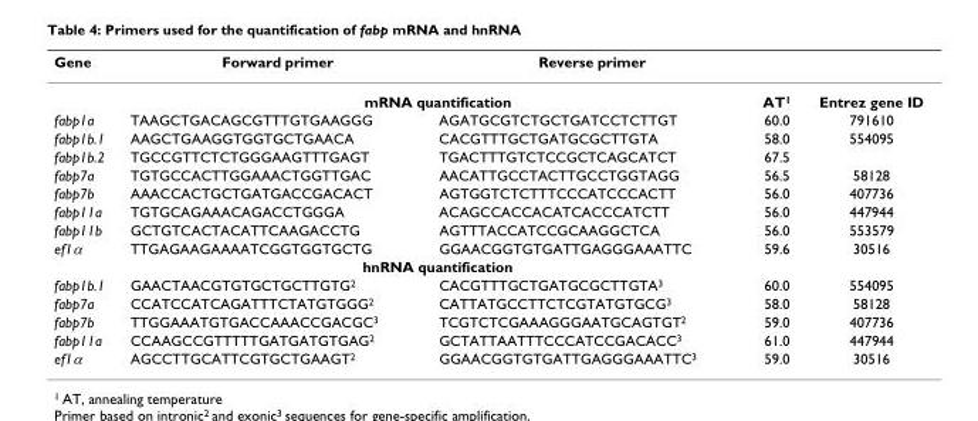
<table><thead><tr><td>Gene</td><td>Forward primer</td><td>Reverse primer</td><td></td><td></td></tr></thead><tbody><tr><td></td><td colspan="2">mRNA quantification</td><td>AT<sup>1</sup></td><td>Entrez gene ID</td></tr><tr><td>fabp1a</td><td>TAAGCTGACAGCGTTTGTGAAGGG</td><td>AGATGCGTCTGCTGATCCTCTTGT</td><td>60.0</td><td>791610</td></tr><tr><td>fabp1b.1</td><td>AAGCTGAAGGTGGTGCTGAACA</td><td>CACGTTTGCTGATGCGCTTGTA</td><td>58.0</td><td>554095</td></tr><tr><td>fabp1b.2</td><td>TGCCGTTCTCTGGGAAGTTTGAGT</td><td>TGACTTTGTCTCCGCTCAGCATCT</td><td>67.5</td><td></td></tr><tr><td>fabp7a</td><td>TGTGCCACTTGGAAACTGGTTGAC</td><td>AACATTGCCTACTTGCCTGGTAGG</td><td>56.5</td><td>58128</td></tr><tr><td>fabp7b</td><td>AAACCACTGCTGATGACCGACACT</td><td>AGTGGTCTCTTTCCCATCCCACTT</td><td>56.0</td><td>407736</td></tr><tr><td>fabp11a</td><td>TGTGCAGAAACAGACCTGGGA</td><td>ACAGCCACCACATCACCCATCTT</td><td>56.0</td><td>447944</td></tr><tr><td>fabp11b</td><td>GCTGTCACTACATTCAAGACCTG</td><td>AGTTTACCATCCGCAAGGCTCA</td><td>56.0</td><td>553579</td></tr><tr><td rowspan="2">ef1α</td><td>TTGAGAAGAAAATCGGTGGTGCTG</td><td>GGAACGGTGTGATTGAGGGAAATTC</td><td>59.6</td><td>30516</td></tr><tr><td colspan="2">hnRNA quantification</td><td></td><td></td></tr><tr><td>fabp1b.1</td><td>GAACTAACGTGTGCTGCTTGTG<sup>2</sup></td><td>CACGTTTGCTGATGCGCTTGTA<sup>3</sup></td><td>60.0</td><td>554095</td></tr><tr><td>fabp7a</td><td>CCATCCATCAGATTTCTATGTGGG<sup>2</sup></td><td>CATTATGCCTTCTCGTATGTGCG<sup>3</sup></td><td>58.0</td><td>58128</td></tr><tr><td>fabp7b</td><td>TTGGAAATGTGACCAAACCGACGC<sup>3</sup></td><td>TCGTCTCGAAAGGGAATGCAGTGT<sup>2</sup></td><td>59.0</td><td>407736</td></tr><tr><td>fabp11a</td><td>CCAAGCCGTTTTTGATGATGTGAG<sup>2</sup></td><td>GCTATTAATTTCCCATCCGACACC<sup>3</sup></td><td>61.0</td><td>447944</td></tr><tr><td>ef1α</td><td>AGCCTTGCATTCGTGCTGAAGT<sup>2</sup></td><td>GGAACGGTGTGATTGAGGGAAATTC<sup>3</sup></td><td>59.0</td><td>30516</td></tr></tbody></table>